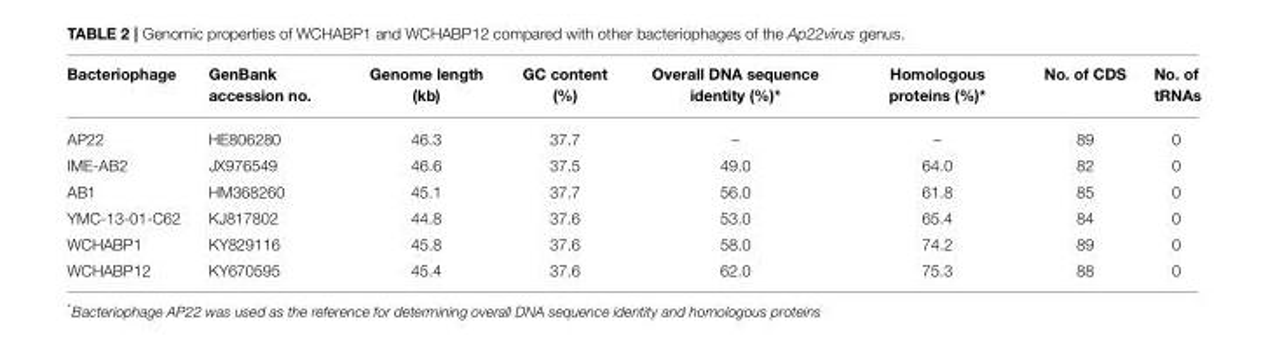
<table><thead><tr><td>Bacteriophage</td><td>GenBank accession no.</td><td>Genome length (kb)</td><td>GC content (%)</td><td>Overall DNA sequence identity (%)*</td><td>Homologous proteins (%)*</td><td>No. of CDS</td><td>No. of tRNAs</td></tr></thead><tbody><tr><td>AP22</td><td>HE806280</td><td>46.3</td><td>37.7</td><td>–</td><td>–</td><td>89</td><td>0</td></tr><tr><td>IME-AB2</td><td>JX976549</td><td>46.6</td><td>37.5</td><td>49.0</td><td>64.0</td><td>82</td><td>0</td></tr><tr><td>AB1</td><td>HM368260</td><td>45.1</td><td>37.7</td><td>56.0</td><td>61.8</td><td>85</td><td>0</td></tr><tr><td>YMC-13-01-C62</td><td>KJ817802</td><td>44.8</td><td>37.6</td><td>53.0</td><td>65.4</td><td>84</td><td>0</td></tr><tr><td>WCHABP1</td><td>KY829116</td><td>45.8</td><td>37.6</td><td>58.0</td><td>74.2</td><td>89</td><td>0</td></tr><tr><td>WCHABP12</td><td>KY670595</td><td>45.4</td><td>37.6</td><td>62.0</td><td>75.3</td><td>88</td><td>0</td></tr></tbody></table>